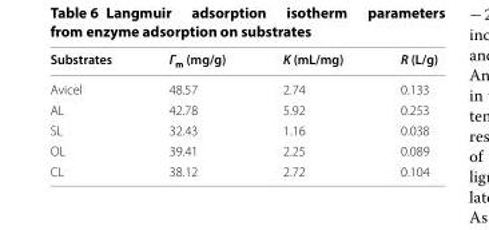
<table><thead><tr><td>Substrates</td><td>Γ<sub>m</sub> (mg/g)</td><td>K (mL/mg)</td><td>R (L/g)</td></tr></thead><tbody><tr><td>Avicel</td><td>48.57</td><td>2.74</td><td>0.133</td></tr><tr><td>AL</td><td>42.78</td><td>5.92</td><td>0.253</td></tr><tr><td>SL</td><td>32.43</td><td>1.16</td><td>0.038</td></tr><tr><td>OL</td><td>39.41</td><td>2.25</td><td>0.089</td></tr><tr><td>CL</td><td>38.12</td><td>2.72</td><td>0.104</td></tr></tbody></table>